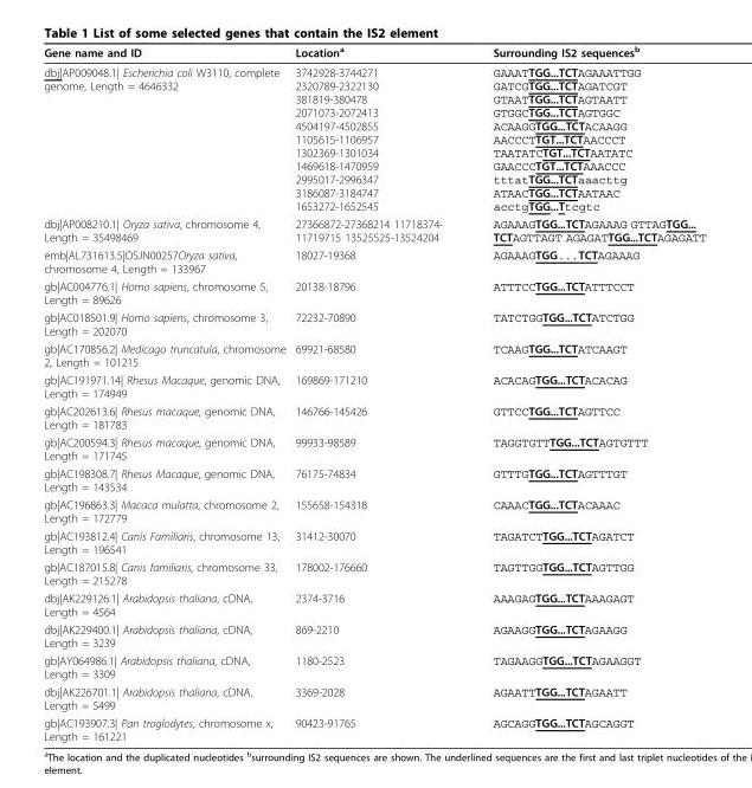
<table><thead><tr><td>Gene name and ID</td><td>Location<sup>a</sup></td><td>Surrounding IS2 sequences<sup>b</sup></td></tr></thead><tbody><tr><td>dbj|AP009048.1| Escherichia coli W3110, complete genome, Length = 4646332</td><td>3742928-3744271 2320789-2322130 381819-380478 2071073-2072413 4504197-4502855 1105615-1106957 1302369-1301034 1469618-1470959 2995017-2996347 3186087-3184747 1653272-1652545</td><td>GAAATTGG...TCTAGAAATTGG GATCGTGG...TCTAGATCGT GTAATTGG...TCTAGTAATT GTGGCTGG...TCTAGTGGC ACAAGGTGG...TCTACAAGG AACCCTTGT...TCTAACCCT TAATATCTGT...TCTAATATC GAACCCTGT...TCTAAACCC tttatTGG...TCTaaacttg ATAACTGG...TCTAATAAC acctgTGG...Ttcgtc</td></tr><tr><td>dbj|AP008210.1| Oryza sativa, chromosome 4, Length = 35498469</td><td>27366872-27368214 11718374- 11719715 13525525-13524204</td><td>AGAAAGTGG...TCTAGAAAG GTTAGTGG... TCTAGTTAGT AGAGATTGG...TCTAGAGATT</td></tr><tr><td>emb|AL731613.5|OSJN00257Oryza sativa, chromosome 4, Length = 133967</td><td>18027-19368</td><td>AGAAAGTGG...TCTAGAAAG</td></tr><tr><td>gb|AC004776.1| Homo sapiens, chromosome 5, Length = 89626</td><td>20138-18796</td><td>ATTTCCTGG...TCTATTTCCT</td></tr><tr><td>gb|AC018501.9| Homo sapiens, chromosome 3, Length = 202070</td><td>72232-70890</td><td>TATCTGGTGG...TCTATCTGG</td></tr><tr><td>gb|AC170856.2| Medicago truncatula, chromosome 2, Length = 101215</td><td>69921-68580</td><td>TCAAGTGG...TCTATCAAGT</td></tr><tr><td>gb|AC191971.14| Rhesus Macaque, genomic DNA, Length = 174949</td><td>169869-171210</td><td>ACACAGTGG...TCTACACAG</td></tr><tr><td>gb|AC202613.6| Rhesus macaque, genomic DNA, Length = 181783</td><td>146766-145426</td><td>GTTCCTGG...TCTAGTTCC</td></tr><tr><td>gb|AC200594.3| Rhesus macaque, genomic DNA, Length = 171745</td><td>99933-98589</td><td>TAGGTGTTTGG...TCTAGTGTTT</td></tr><tr><td>gb|AC198308.7| Rhesus Macaque, genomic DNA, Length = 143534</td><td>76175-74834</td><td>GTTTGTGG...TCTAGTTTGT</td></tr><tr><td>gb|AC196863.3| Macaca mulatta, chromosome 2, Length = 172779</td><td>155658-154318</td><td>CAAACTGG...TCTACAAAC</td></tr><tr><td>gb|AC193812.4| Canis Familiaris, chromosome 13, Length = 196541</td><td>31412-30070</td><td>TAGATCTTGG...TCTAGATCT</td></tr><tr><td>gb|AC187015.8| Canis familiaris, chromosome 33, Length = 215278</td><td>178002-176660</td><td>TAGTTGGTGG...TCTAGTTGG</td></tr><tr><td>dbj|AK229126.1| Arabidopsis thaliana, cDNA, Length = 4564</td><td>2374-3716</td><td>AAAGAGTGG...TCTAAAGAGT</td></tr><tr><td>dbj|AK229400.1| Arabidopsis thaliana, cDNA, Length = 3239</td><td>869-2210</td><td>AGAAGGTGG...TCTAGAAGG</td></tr><tr><td>gb|AY064986.1| Arabidopsis thaliana, cDNA, Length = 3309</td><td>1180-2523</td><td>TAGAAGGTGG...TCTAGAAGGT</td></tr><tr><td>dbj|AK226701.1| Arabidopsis thaliana, cDNA, Length = 5499</td><td>3369-2028</td><td>AGAATTTGG...TCTAGAATT</td></tr><tr><td>gb|AC193907.3| Pan troglodytes, chromosome x, Length = 161221</td><td>90423-91765</td><td>AGCAGGTGG...TCTAGCAGGT</td></tr></tbody></table>